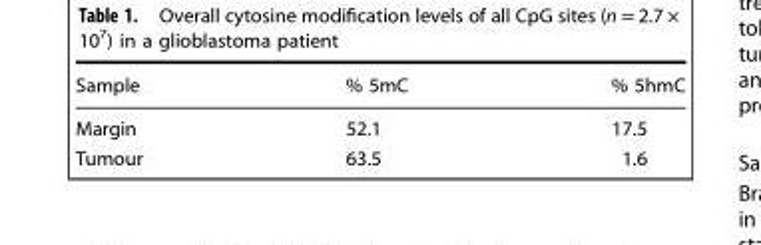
<table><thead><tr><td>Sample</td><td>% 5mC</td><td>% 5hmC</td></tr></thead><tbody><tr><td>Margin</td><td>52.1</td><td>17.5</td></tr><tr><td>Tumour</td><td>63.5</td><td>1.6</td></tr></tbody></table>